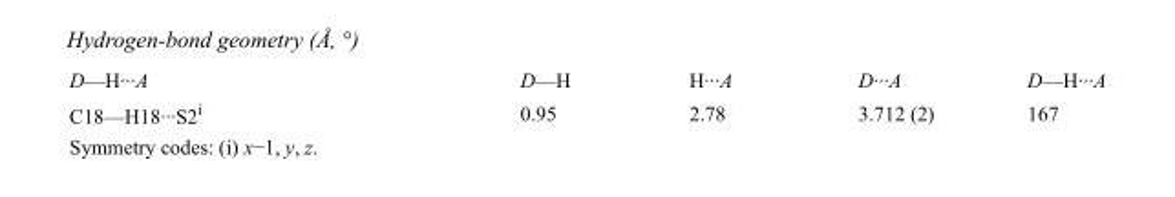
<table><tbody><tr><td>D—H···A</td><td>D—H</td><td>H···A</td><td>D···A</td><td>D—H···A</td></tr><tr><td>C18—H18···S2<sup>i</sup></td><td>0.95</td><td>2.78</td><td>3.712 (2)</td><td>167</td></tr></tbody></table>